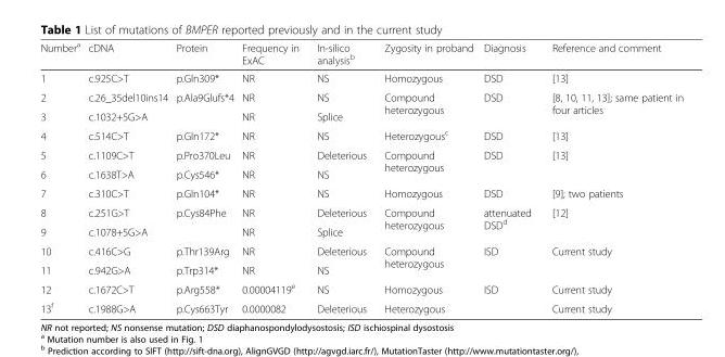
<table><thead><tr><td>Number<sup>a</sup></td><td>cDNA</td><td>Protein</td><td>Frequency in ExAC</td><td>In-silico analysis<sup>b</sup></td><td>Zygosity in proband</td><td>Diagnosis</td><td>Reference and comment</td></tr></thead><tbody><tr><td>1</td><td>c.925C&gt;T</td><td>p.Gln309*</td><td>NR</td><td>NS</td><td>Homozygous</td><td>DSD</td><td>[13]</td></tr><tr><td>2</td><td>c.26_35del10ins14</td><td>p.Ala9Glufs*4</td><td>NR</td><td>NS</td><td rowspan="2">Compound heterozygous</td><td rowspan="2">DSD</td><td rowspan="2">[8, 10, 11, 13]; same patient in four articles</td></tr><tr><td>3</td><td>c.1032+5G&gt;A</td><td></td><td>NR</td><td>Splice</td></tr><tr><td>4</td><td>c.514C&gt;T</td><td>p.Gln172*</td><td>NR</td><td>NS</td><td>Heterozygous<sup>c</sup></td><td>DSD</td><td>[13]</td></tr><tr><td>5</td><td>c.1109C&gt;T</td><td>p.Pro370Leu</td><td>NR</td><td>Deleterious</td><td rowspan="2">Compound heterozygous</td><td rowspan="2">DSD</td><td rowspan="2">[13]</td></tr><tr><td>6</td><td>c.1638T&gt;A</td><td>p.Cys546*</td><td>NR</td><td>NS</td></tr><tr><td>7</td><td>c.310C&gt;T</td><td>p.Gln104*</td><td>NR</td><td>NS</td><td>Homozygous</td><td>DSD</td><td>[9]; two patients</td></tr><tr><td>8</td><td>c.251G&gt;T</td><td>p.Cys84Phe</td><td>NR</td><td>Deleterious</td><td rowspan="2">Compound heterozygous</td><td rowspan="2">attenuated DSD<sup>d</sup></td><td rowspan="2">[12]</td></tr><tr><td>9</td><td>c.1078+5G&gt;A</td><td></td><td>NR</td><td>Splice</td></tr><tr><td>10</td><td>c.416C&gt;G</td><td>p.Thr139Arg</td><td>NR</td><td>Deleterious</td><td rowspan="2">Compound heterozygous</td><td rowspan="2">ISD</td><td rowspan="2">Current study</td></tr><tr><td>11</td><td>c.942G&gt;A</td><td>p.Trp314*</td><td>NR</td><td>NS</td></tr><tr><td>12</td><td>c.1672C&gt;T</td><td>p.Arg558*</td><td>0.00004119<sup>e</sup></td><td>NS</td><td>Homozygous</td><td rowspan="2">ISD</td><td>Current study</td></tr><tr><td>13<sup>f</sup></td><td>c.1988G&gt;A</td><td>p.Cys663Tyr</td><td>0.0000082</td><td>Deleterious</td><td>Heterozygous</td><td>Current study</td></tr></tbody></table>